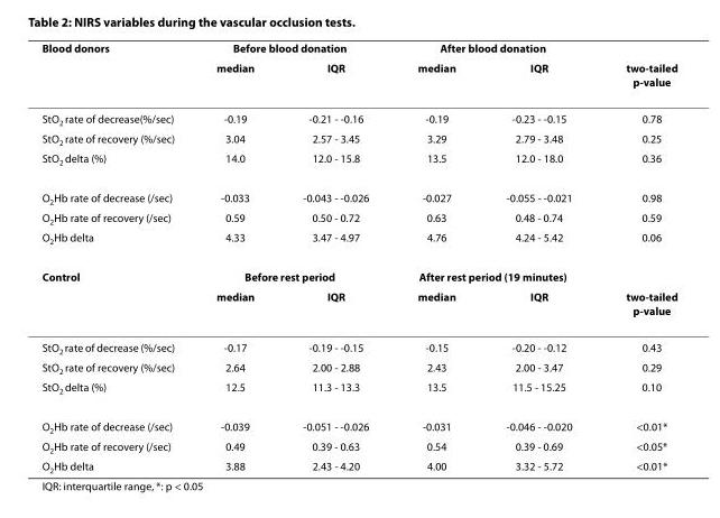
<table><thead><tr><td rowspan="2">Blood donors</td><td colspan="2">Before blood donation</td><td colspan="2">After blood donation</td><td rowspan="2">two-tailed p-value</td></tr><tr><td>median</td><td>IQR</td><td>median</td><td>IQR</td></tr></thead><tbody><tr><td>StO<sub>2</sub> rate of decrease(%/sec)</td><td>-0.19</td><td>-0.21 - -0.16</td><td>-0.19</td><td>-0.23 - -0.15</td><td>0.78</td></tr><tr><td>StO<sub>2</sub> rate of recovery (%/sec)</td><td>3.04</td><td>2.57 - 3.45</td><td>3.29</td><td>2.79 - 3.48</td><td>0.25</td></tr><tr><td>StO<sub>2</sub> delta (%)</td><td>14.0</td><td>12.0 - 15.8</td><td>13.5</td><td>12.0 - 18.0</td><td>0.36</td></tr><tr><td>O<sub>2</sub>Hb rate of decrease (/sec)</td><td>-0.033</td><td>-0.043 - -0.026</td><td>-0.027</td><td>-0.055 - -0.021</td><td>0.98</td></tr><tr><td>O<sub>2</sub>Hb rate of recovery (/sec)</td><td>0.59</td><td>0.50 - 0.72</td><td>0.63</td><td>0.48 - 0.74</td><td>0.59</td></tr><tr><td>O<sub>2</sub>Hb delta</td><td>4.33</td><td>3.47 - 4.97</td><td>4.76</td><td>4.24 - 5.42</td><td>0.06</td></tr><tr><td rowspan="2">Control</td><td colspan="2">Before rest period</td><td colspan="2">After rest period (19 minutes)</td><td></td></tr><tr><td>median</td><td>IQR</td><td>median</td><td>IQR</td><td>two-tailed p-value</td></tr><tr><td>StO<sub>2</sub> rate of decrease (%/sec)</td><td>-0.17</td><td>-0.19 - -0.15</td><td>-0.15</td><td>-0.20 - -0.12</td><td>0.43</td></tr><tr><td>StO<sub>2</sub> rate of recovery (%/sec)</td><td>2.64</td><td>2.00 - 2.88</td><td>2.43</td><td>2.00 - 3.47</td><td>0.29</td></tr><tr><td>StO<sub>2</sub> delta (%)</td><td>12.5</td><td>11.3 - 13.3</td><td>13.5</td><td>11.5 - 15.25</td><td>0.10</td></tr><tr><td>O<sub>2</sub>Hb rate of decrease (/sec)</td><td>-0.039</td><td>-0.051 - -0.026</td><td>-0.031</td><td>-0.046 - -0.020</td><td>&lt;0.01*</td></tr><tr><td>O<sub>2</sub>Hb rate of recovery (/sec)</td><td>0.49</td><td>0.39 - 0.63</td><td>0.54</td><td>0.39 - 0.69</td><td>&lt;0.05*</td></tr><tr><td>O<sub>2</sub>Hb delta</td><td>3.88</td><td>2.43 - 4.20</td><td>4.00</td><td>3.32 - 5.72</td><td>&lt;0.01*</td></tr></tbody></table>